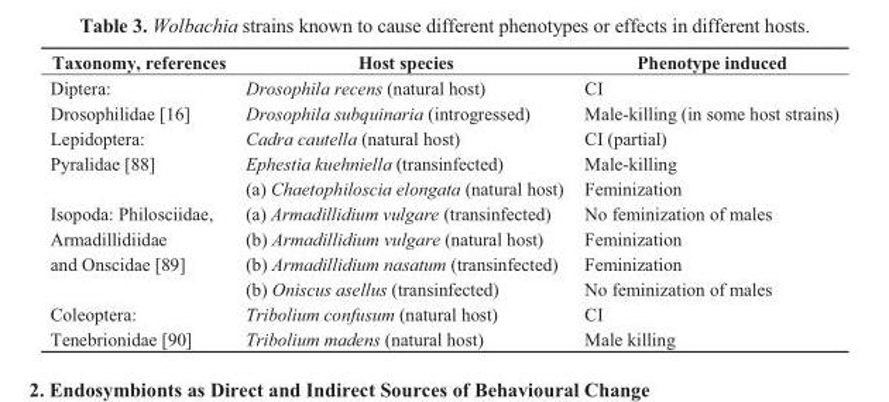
<table><thead><tr><td>Taxonomy, references</td><td>Host species</td><td>Phenotype induced</td></tr></thead><tbody><tr><td rowspan="2">Diptera: Drosophilidae [16]</td><td>Drosophila recens (natural host)</td><td>CI</td></tr><tr><td>Drosophila subquinaria (introgressed)</td><td>Male-killing (in some host strains)</td></tr><tr><td rowspan="2">Lepidoptera: Pyralidae [88]</td><td>Cadra cautella (natural host)</td><td>CI (partial)</td></tr><tr><td>Ephestia kuehniella (transinfected)</td><td>Male-killing</td></tr><tr><td rowspan="5">Isopoda: Philosciidae, Armadillidiidae and Onscidae [89]</td><td>(a) Chaetophiloscia elongata (natural host)</td><td>Feminization</td></tr><tr><td>(a) Armadillidium vulgare (transinfected)</td><td>No feminization of males</td></tr><tr><td>(b) Armadillidium vulgare (natural host)</td><td>Feminization</td></tr><tr><td>(b) Armadillidium nasatum (transinfected)</td><td>Feminization</td></tr><tr><td>(b) Oniscus asellus (transinfected)</td><td>No feminization of males</td></tr><tr><td rowspan="2">Coleoptera: Tenebrionidae [90]</td><td>Tribolium confusum (natural host)</td><td>CI</td></tr><tr><td>Tribolium madens (natural host)</td><td>Male killing</td></tr></tbody></table>